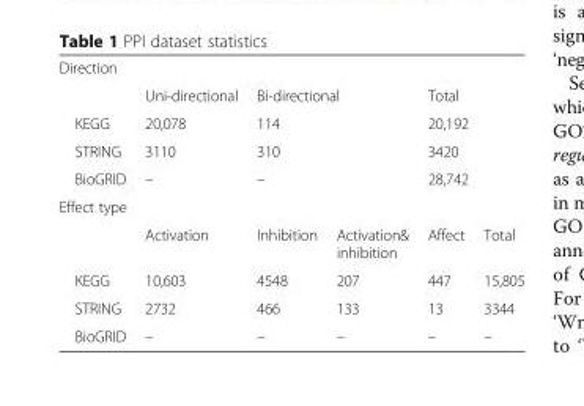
<table><tbody><tr><td colspan="6">Direction</td></tr><tr><td></td><td>Uni-directional</td><td colspan="2">Bi-directional</td><td colspan="2">Total</td></tr><tr><td>KEGG</td><td>20,078</td><td colspan="2">114</td><td colspan="2">20,192</td></tr><tr><td>STRING</td><td>3110</td><td colspan="2">310</td><td colspan="2">3420</td></tr><tr><td>BioGRID</td><td>–</td><td colspan="2">–</td><td colspan="2">28,742</td></tr><tr><td colspan="6">Effect type</td></tr><tr><td></td><td>Activation</td><td>Inhibition</td><td>Activation&amp; inhibition</td><td>Affect</td><td>Total</td></tr><tr><td>KEGG</td><td>10,603</td><td>4548</td><td>207</td><td>447</td><td>15,805</td></tr><tr><td>STRING</td><td>2732</td><td>466</td><td>133</td><td>13</td><td>3344</td></tr><tr><td>BioGRID</td><td>–</td><td>–</td><td>–</td><td>–</td><td>–</td></tr></tbody></table>